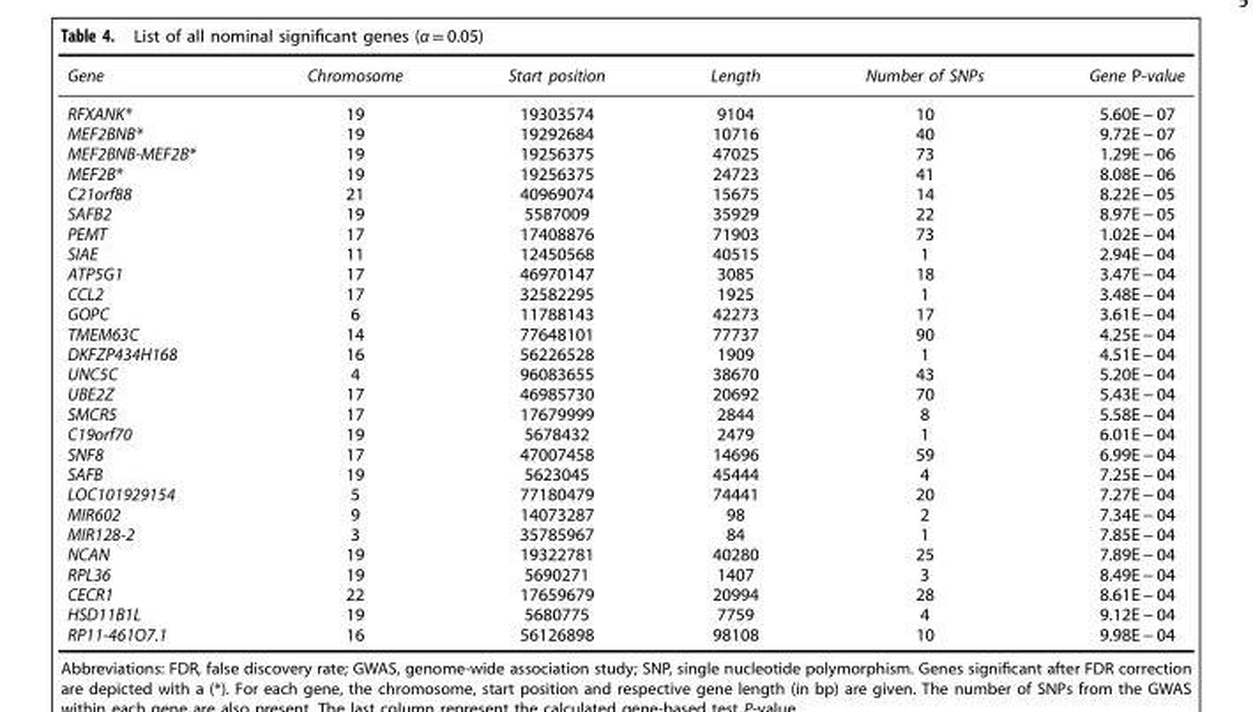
<table><thead><tr><td>Gene</td><td>Chromosome</td><td>Start position</td><td>Length</td><td>Number of SNPs</td><td>Gene P-value</td></tr></thead><tbody><tr><td>RFXANK*</td><td>19</td><td>19303574</td><td>9104</td><td>10</td><td>5.60E − 07</td></tr><tr><td>MEF2BNB*</td><td>19</td><td>19292684</td><td>10716</td><td>40</td><td>9.72E − 07</td></tr><tr><td>MEF2BNB-MEF2B*</td><td>19</td><td>19256375</td><td>47025</td><td>73</td><td>1.29E − 06</td></tr><tr><td>MEF2B*</td><td>19</td><td>19256375</td><td>24723</td><td>41</td><td>8.08E − 06</td></tr><tr><td>C21orf88</td><td>21</td><td>40969074</td><td>15675</td><td>14</td><td>8.22E − 05</td></tr><tr><td>SAFB2</td><td>19</td><td>5587009</td><td>35929</td><td>22</td><td>8.97E − 05</td></tr><tr><td>PEMT</td><td>17</td><td>17408876</td><td>71903</td><td>73</td><td>1.02E − 04</td></tr><tr><td>SIAE</td><td>11</td><td>12450568</td><td>40515</td><td>1</td><td>2.94E − 04</td></tr><tr><td>ATP5G1</td><td>17</td><td>46970147</td><td>3085</td><td>18</td><td>3.47E − 04</td></tr><tr><td>CCL2</td><td>17</td><td>32582295</td><td>1925</td><td>1</td><td>3.48E − 04</td></tr><tr><td>GOPC</td><td>6</td><td>11788143</td><td>42273</td><td>17</td><td>3.61E − 04</td></tr><tr><td>TMEM63C</td><td>14</td><td>77648101</td><td>77737</td><td>90</td><td>4.25E − 04</td></tr><tr><td>DKFZP434H168</td><td>16</td><td>56226528</td><td>1909</td><td>1</td><td>4.51E − 04</td></tr><tr><td>UNC5C</td><td>4</td><td>96083655</td><td>38670</td><td>43</td><td>5.20E − 04</td></tr><tr><td>UBE2Z</td><td>17</td><td>46985730</td><td>20692</td><td>70</td><td>5.43E − 04</td></tr><tr><td>SMCR5</td><td>17</td><td>17679999</td><td>2844</td><td>8</td><td>5.58E − 04</td></tr><tr><td>C19orf70</td><td>19</td><td>5678432</td><td>2479</td><td>1</td><td>6.01E − 04</td></tr><tr><td>SNF8</td><td>17</td><td>47007458</td><td>14696</td><td>59</td><td>6.99E − 04</td></tr><tr><td>SAFB</td><td>19</td><td>5623045</td><td>45444</td><td>4</td><td>7.25E − 04</td></tr><tr><td>LOC101929154</td><td>5</td><td>77180479</td><td>74441</td><td>20</td><td>7.27E − 04</td></tr><tr><td>MIR602</td><td>9</td><td>14073287</td><td>98</td><td>2</td><td>7.34E − 04</td></tr><tr><td>MIR128-2</td><td>3</td><td>35785967</td><td>84</td><td>1</td><td>7.85E − 04</td></tr><tr><td>NCAN</td><td>19</td><td>19322781</td><td>40280</td><td>25</td><td>7.89E − 04</td></tr><tr><td>RPL36</td><td>19</td><td>5690271</td><td>1407</td><td>3</td><td>8.49E − 04</td></tr><tr><td>CECR1</td><td>22</td><td>17659679</td><td>20994</td><td>28</td><td>8.61E − 04</td></tr><tr><td>HSD11B1L</td><td>19</td><td>5680775</td><td>7759</td><td>4</td><td>9.12E − 04</td></tr><tr><td>RP11-461O7.1</td><td>16</td><td>56126898</td><td>98108</td><td>10</td><td>9.98E − 04</td></tr></tbody></table>